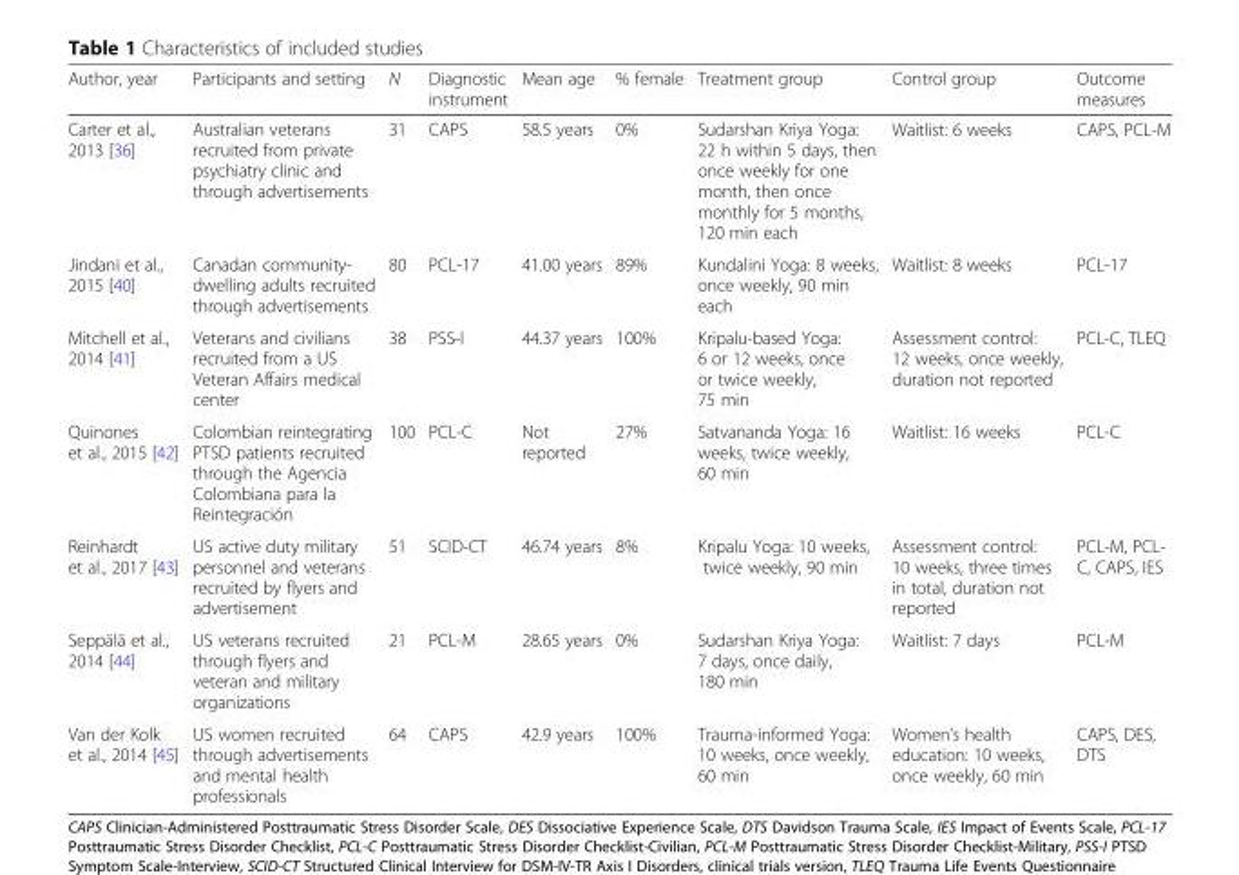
<table><thead><tr><td>Author, year</td><td>Participants and setting</td><td>N</td><td>Diagnostic instrument</td><td>Mean age</td><td>% female</td><td>Treatment group</td><td>Control group</td><td>Outcome measures</td></tr></thead><tbody><tr><td>Carter et al., 2013 [36]</td><td>Australian veterans recruited from private psychiatry clinic and through advertisements</td><td>31</td><td>CAPS</td><td>58.5 years</td><td>0%</td><td>Sudarshan Kriya Yoga: 22 h within 5 days, then once weekly for one month, then once monthly for 5 months, 120 min each</td><td>Waitlist: 6 weeks</td><td>CAPS, PCL-M</td></tr><tr><td>Jindani et al., 2015 [40]</td><td>Canadan community- dwelling adults recruited through advertisements</td><td>80</td><td>PCL-17</td><td>41.00 years</td><td>89%</td><td>Kundalini Yoga: 8 weeks, once weekly, 90 min each</td><td>Waitlist: 8 weeks</td><td>PCL-17</td></tr><tr><td>Mitchell et al., 2014 [41]</td><td>Veterans and civilians recruited from a US Veteran Affairs medical center</td><td>38</td><td>PSS-I</td><td>44.37 years</td><td>100%</td><td>Kripalu-based Yoga: 6 or 12 weeks, once or twice weekly, 75 min</td><td>Assessment control: 12 weeks, once weekly, duration not reported</td><td>PCL-C, TLEQ</td></tr><tr><td>Quinones et al., 2015 [42]</td><td>Colombian reintegrating PTSD patients recruited through the Agencia Colombiana para la Reintegración</td><td>100</td><td>PCL-C</td><td>Not reported</td><td>27%</td><td>Satvananda Yoga: 16 weeks, twice weekly, 60 min</td><td>Waitlist: 16 weeks</td><td>PCL-C</td></tr><tr><td>Reinhardt et al., 2017 [43]</td><td>US active duty military personnel and veterans recruited by flyers and advertisement</td><td>51</td><td>SCID-CT</td><td>46.74 years</td><td>8%</td><td>Kripalu Yoga: 10 weeks, twice weekly, 90 min</td><td>Assessment control: 10 weeks, three times in total, duration not reported</td><td>PCL-M, PCL- C, CAPS, IES</td></tr><tr><td>Seppälä et al., 2014 [44]</td><td>US veterans recruited through flyers and veteran and military organizations</td><td>21</td><td>PCL-M</td><td>28.65 years</td><td>0%</td><td>Sudarshan Kriya Yoga: 7 days, once daily, 180 min</td><td>Waitlist: 7 days</td><td>PCL-M</td></tr><tr><td>Van der Kolk et al., 2014 [45]</td><td>US women recruited through advertisements and mental health professionals</td><td>64</td><td>CAPS</td><td>42.9 years</td><td>100%</td><td>Trauma-informed Yoga: 10 weeks, once weekly, 60 min</td><td>Women’s health education: 10 weeks, once weekly, 60 min</td><td>CAPS, DES, DTS</td></tr></tbody></table>